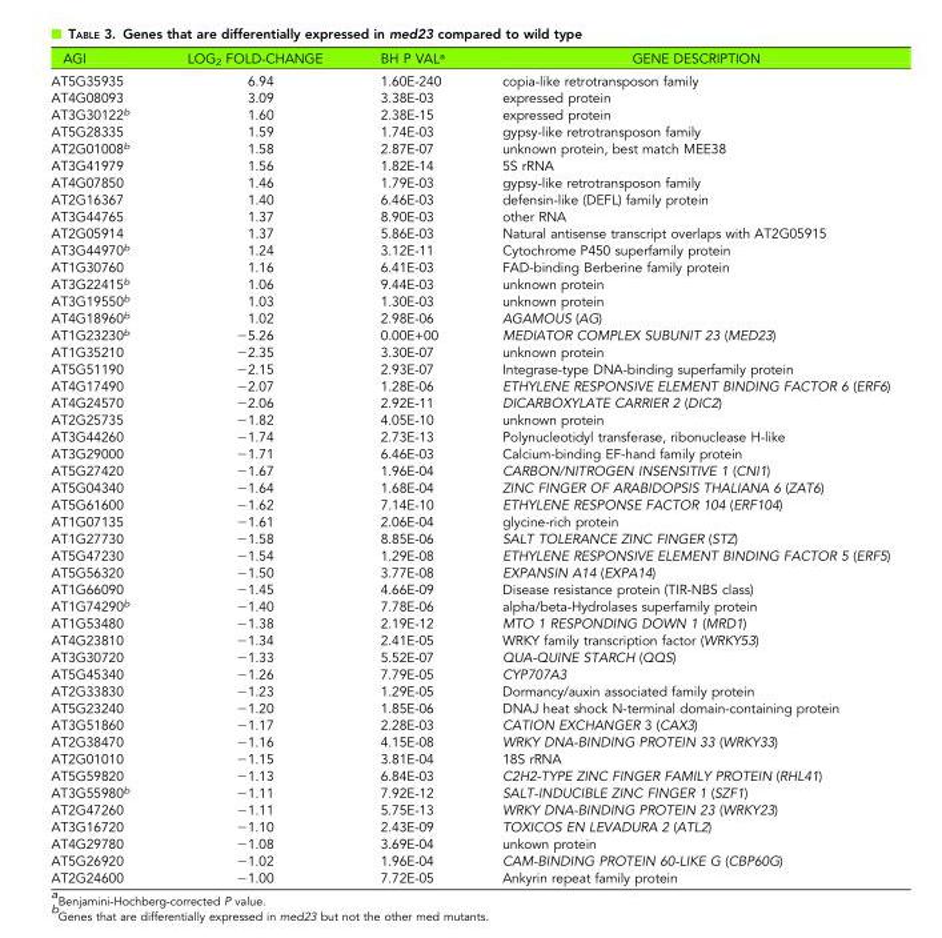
<table><thead><tr><td>AGI</td><td>LOG<sub>2</sub> FOLD-CHANGE</td><td>BH P VAL<sup>a</sup></td><td>GENE DESCRIPTION</td></tr></thead><tbody><tr><td>AT5G35935</td><td>6.94</td><td>1.60E-240</td><td>copia-like retrotransposon family</td></tr><tr><td>AT4G08093</td><td>3.09</td><td>3.38E-03</td><td>expressed protein</td></tr><tr><td>AT3G30122<sup>b</sup></td><td>1.60</td><td>2.38E-15</td><td>expressed protein</td></tr><tr><td>AT5G28335</td><td>1.59</td><td>1.74E-03</td><td>gypsy-like retrotransposon family</td></tr><tr><td>AT2G01008<sup>b</sup></td><td>1.58</td><td>2.87E-07</td><td>unknown protein, best match MEE38</td></tr><tr><td>AT3G41979</td><td>1.56</td><td>1.82E-14</td><td>5S rRNA</td></tr><tr><td>AT4G07850</td><td>1.46</td><td>1.79E-03</td><td>gypsy-like retrotransposon family</td></tr><tr><td>AT2G16367</td><td>1.40</td><td>6.46E-03</td><td>defensin-like (DEFL) family protein</td></tr><tr><td>AT3G44765</td><td>1.37</td><td>8.90E-03</td><td>other RNA</td></tr><tr><td>AT2G05914</td><td>1.37</td><td>5.86E-03</td><td>Natural antisense transcript overlaps with AT2G05915</td></tr><tr><td>AT3G44970<sup>b</sup></td><td>1.24</td><td>3.12E-11</td><td>Cytochrome P450 superfamily protein</td></tr><tr><td>AT1G30760</td><td>1.16</td><td>6.41E-03</td><td>FAD-binding Berberine family protein</td></tr><tr><td>AT3G22415<sup>b</sup></td><td>1.06</td><td>9.44E-03</td><td>unknown protein</td></tr><tr><td>AT3G19550<sup>b</sup></td><td>1.03</td><td>1.30E-03</td><td>unknown protein</td></tr><tr><td>AT4G18960<sup>b</sup></td><td>1.02</td><td>2.98E-06</td><td>AGAMOUS (AG)</td></tr><tr><td>AT1G23230<sup>b</sup></td><td>−5.26</td><td>0.00E+00</td><td>MEDIATOR COMPLEX SUBUNIT 23 (MED23)</td></tr><tr><td>AT1G35210</td><td>−2.35</td><td>3.30E-07</td><td>unknown protein</td></tr><tr><td>AT5G51190</td><td>−2.15</td><td>2.93E-07</td><td>Integrase-type DNA-binding superfamily protein</td></tr><tr><td>AT4G17490</td><td>−2.07</td><td>1.28E-06</td><td>ETHYLENE RESPONSIVE ELEMENT BINDING FACTOR 6 (ERF6)</td></tr><tr><td>AT4G24570</td><td>−2.06</td><td>2.92E-11</td><td>DICARBOXYLATE CARRIER 2 (DIC2)</td></tr><tr><td>AT2G25735</td><td>−1.82</td><td>4.05E-10</td><td>unknown protein</td></tr><tr><td>AT3G44260</td><td>−1.74</td><td>2.73E-13</td><td>Polynucleotidyl transferase, ribonuclease H-like</td></tr><tr><td>AT3G29000</td><td>−1.71</td><td>6.46E-03</td><td>Calcium-binding EF-hand family protein</td></tr><tr><td>AT5G27420</td><td>−1.67</td><td>1.96E-04</td><td>CARBON/NITROGEN INSENSITIVE 1 (CNI1)</td></tr><tr><td>AT5G04340</td><td>−1.64</td><td>1.68E-04</td><td>ZINC FINGER OF ARABIDOPSIS THALIANA 6 (ZAT6)</td></tr><tr><td>AT5G61600</td><td>−1.62</td><td>7.14E-10</td><td>ETHYLENE RESPONSE FACTOR 104 (ERF104)</td></tr><tr><td>AT1G07135</td><td>−1.61</td><td>2.06E-04</td><td>glycine-rich protein</td></tr><tr><td>AT1G27730</td><td>−1.58</td><td>8.85E-06</td><td>SALT TOLERANCE ZINC FINGER (STZ)</td></tr><tr><td>AT5G47230</td><td>−1.54</td><td>1.29E-08</td><td>ETHYLENE RESPONSIVE ELEMENT BINDING FACTOR 5 (ERF5)</td></tr><tr><td>AT5G56320</td><td>−1.50</td><td>3.77E-08</td><td>EXPANSIN A14 (EXPA14)</td></tr><tr><td>AT1G66090</td><td>−1.45</td><td>4.66E-09</td><td>Disease resistance protein (TIR-NBS class)</td></tr><tr><td>AT1G74290<sup>b</sup></td><td>−1.40</td><td>7.78E-06</td><td>alpha/beta-Hydrolases superfamily protein</td></tr><tr><td>AT1G53480</td><td>−1.38</td><td>2.19E-12</td><td>MTO 1 RESPONDING DOWN 1 (MRD1)</td></tr><tr><td>AT4G23810</td><td>−1.34</td><td>2.41E-05</td><td>WRKY family transcription factor (WRKY53)</td></tr><tr><td>AT3G30720</td><td>−1.33</td><td>5.52E-07</td><td>QUA-QUINE STARCH (QQS)</td></tr><tr><td>AT5G45340</td><td>−1.26</td><td>7.79E-05</td><td>CYP707A3</td></tr><tr><td>AT2G33830</td><td>−1.23</td><td>1.29E-05</td><td>Dormancy/auxin associated family protein</td></tr><tr><td>AT5G23240</td><td>−1.20</td><td>1.85E-06</td><td>DNAJ heat shock N-terminal domain-containing protein</td></tr><tr><td>AT3G51860</td><td>−1.17</td><td>2.28E-03</td><td>CATION EXCHANGER 3 (CAX3)</td></tr><tr><td>AT2G38470</td><td>−1.16</td><td>4.15E-08</td><td>WRKY DNA-BINDING PROTEIN 33 (WRKY33)</td></tr><tr><td>AT2G01010</td><td>−1.15</td><td>3.81E-04</td><td>18S rRNA</td></tr><tr><td>AT5G59820</td><td>−1.13</td><td>6.84E-03</td><td>C2H2-TYPE ZINC FINGER FAMILY PROTEIN (RHL41)</td></tr><tr><td>AT3G55980<sup>b</sup></td><td>−1.11</td><td>7.92E-12</td><td>SALT-INDUCIBLE ZINC FINGER 1 (SZF1)</td></tr><tr><td>AT2G47260</td><td>−1.11</td><td>5.75E-13</td><td>WRKY DNA-BINDING PROTEIN 23 (WRKY23)</td></tr><tr><td>AT3G16720</td><td>−1.10</td><td>2.43E-09</td><td>TOXICOS EN LEVADURA 2 (ATL2)</td></tr><tr><td>AT4G29780</td><td>−1.08</td><td>3.69E-04</td><td>unkown protein</td></tr><tr><td>AT5G26920</td><td>−1.02</td><td>1.96E-04</td><td>CAM-BINDING PROTEIN 60-LIKE G (CBP60G)</td></tr><tr><td>AT2G24600</td><td>−1.00</td><td>7.72E-05</td><td>Ankyrin repeat family protein</td></tr></tbody></table>